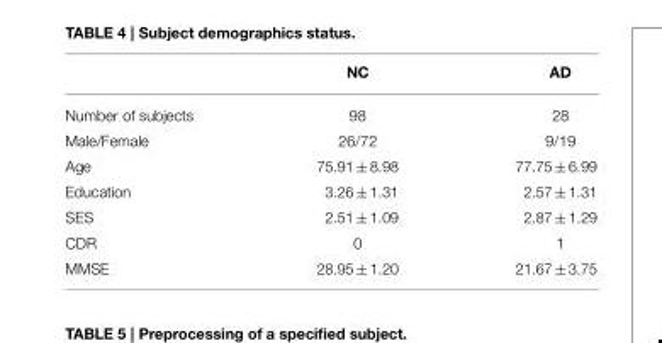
<table><thead><tr><td></td><td>NC</td><td>AD</td></tr></thead><tbody><tr><td>Number of subjects</td><td>98</td><td>28</td></tr><tr><td>Male/Female</td><td>26/72</td><td>9/19</td></tr><tr><td>Age</td><td>75.91 ± 8.98</td><td>77.75 ± 6.99</td></tr><tr><td>Education</td><td>3.26 ± 1.31</td><td>2.57 ± 1.31</td></tr><tr><td>SES</td><td>2.51 ± 1.09</td><td>2.87 ± 1.29</td></tr><tr><td>CDR</td><td>0</td><td>1</td></tr><tr><td>MMSE</td><td>28.95 ± 1.20</td><td>21.67 ± 3.75</td></tr></tbody></table>